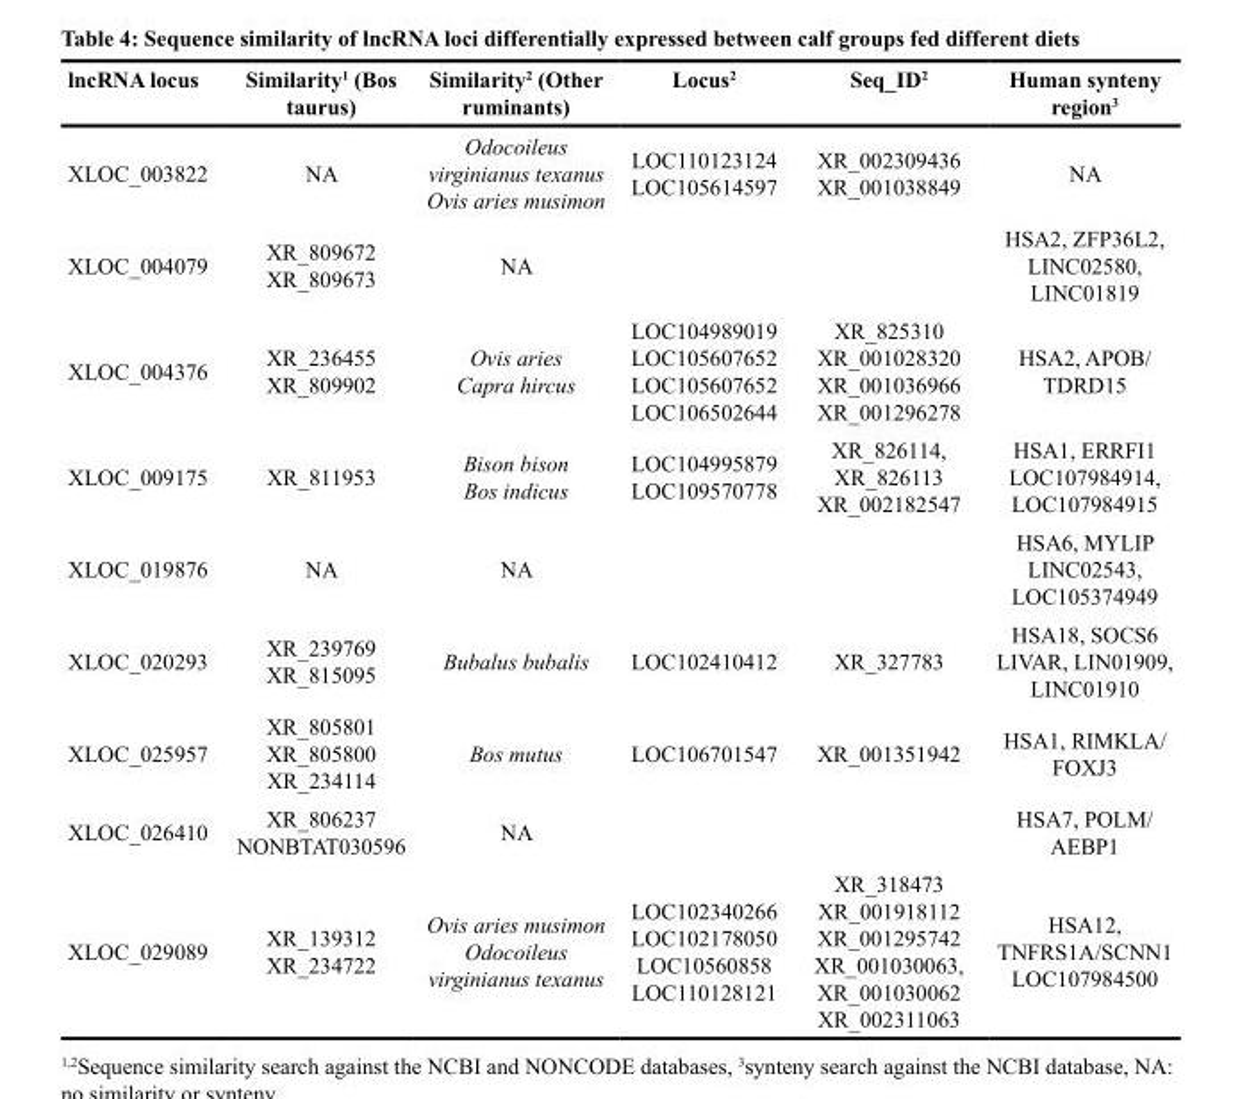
<table><thead><tr><td>lncRNA locus</td><td>Similarity<sup>1</sup> (Bos taurus)</td><td>Similarity<sup>2</sup> (Other ruminants)</td><td>Locus<sup>2</sup></td><td>Seq_ID<sup>2</sup></td><td>Human synteny region<sup>3</sup></td></tr></thead><tbody><tr><td>XLOC_003822</td><td>NA</td><td>Odocoileus virginianus texanus Ovis aries musimon</td><td>LOC110123124 LOC105614597</td><td>XR_002309436 XR_001038849</td><td>NA</td></tr><tr><td>XLOC_004079</td><td>XR_809672 XR_809673</td><td>NA</td><td></td><td></td><td>HSA2, ZFP36L2, LINC02580, LINC01819</td></tr><tr><td>XLOC_004376</td><td>XR_236455 XR_809902</td><td>Ovis aries Capra hircus</td><td>LOC104989019 LOC105607652 LOC105607652 LOC106502644</td><td>XR_825310 XR_001028320 XR_001036966 XR_001296278</td><td>HSA2, APOB/ TDRD15</td></tr><tr><td>XLOC_009175</td><td>XR_811953</td><td>Bison bison Bos indicus</td><td>LOC104995879 LOC109570778</td><td>XR_826114, XR_826113 XR_002182547</td><td>HSA1, ERRFI1 LOC107984914, LOC107984915</td></tr><tr><td>XLOC_019876</td><td>NA</td><td>NA</td><td></td><td></td><td>HSA6, MYLIP LINC02543, LOC105374949</td></tr><tr><td>XLOC_020293</td><td>XR_239769 XR_815095</td><td>Bubalus bubalis</td><td>LOC102410412</td><td>XR_327783</td><td>HSA18, SOCS6 LIVAR, LIN01909, LINC01910</td></tr><tr><td>XLOC_025957</td><td>XR_805801 XR_805800 XR_234114</td><td>Bos mutus</td><td>LOC106701547</td><td>XR_001351942</td><td>HSA1, RIMKLA/ FOXJ3</td></tr><tr><td>XLOC_026410</td><td>XR_806237 NONBTAT030596</td><td>NA</td><td></td><td></td><td>HSA7, POLM/ AEBP1</td></tr><tr><td>XLOC_029089</td><td>XR_139312 XR_234722</td><td>Ovis aries musimon Odocoileus virginianus texanus</td><td>LOC102340266 LOC102178050 LOC10560858 LOC110128121</td><td>XR_318473 XR_001918112 XR_001295742 XR_001030063, XR_001030062 XR_002311063</td><td>HSA12, TNFRS1A/SCNN1 LOC107984500</td></tr></tbody></table>